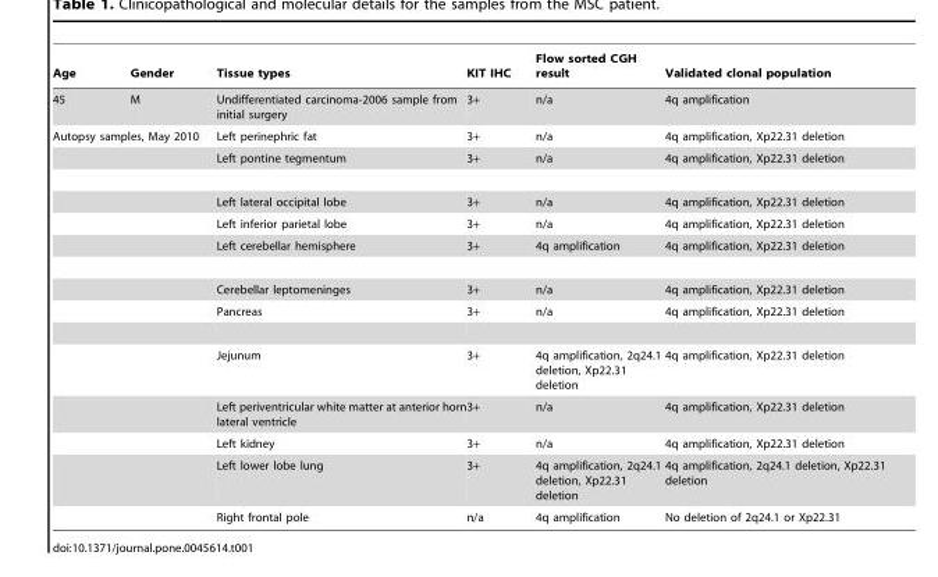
<table><thead><tr><td>Age</td><td>Gender</td><td>Tissue types</td><td>KIT IHC</td><td>Flow sorted CGH result</td><td>Validated clonal population</td></tr></thead><tbody><tr><td>45</td><td>M</td><td>Undifferentiated carcinoma-2006 sample from initial surgery</td><td>3+</td><td>n/a</td><td>4q amplification</td></tr><tr><td rowspan="12" colspan="2">Autopsy samples, May 2010</td><td>Left perinephric fat</td><td>3+</td><td>n/a</td><td>4q amplification, Xp22.31 deletion</td></tr><tr><td>Left pontine tegmentum</td><td>3+</td><td>n/a</td><td>4q amplification, Xp22.31 deletion</td></tr><tr><td>Left lateral occipital lobe</td><td>3+</td><td>n/a</td><td>4q amplification, Xp22.31 deletion</td></tr><tr><td>Left inferior parietal lobe</td><td>3+</td><td>n/a</td><td>4q amplification, Xp22.31 deletion</td></tr><tr><td>Left cerebellar hemisphere</td><td>3+</td><td>4q amplification</td><td>4q amplification, Xp22.31 deletion</td></tr><tr><td>Cerebellar leptomeninges</td><td>3+</td><td>n/a</td><td>4q amplification, Xp22.31 deletion</td></tr><tr><td>Pancreas</td><td>3+</td><td>n/a</td><td>4q amplification, Xp22.31 deletion</td></tr><tr><td>Jejunum</td><td>3+</td><td>4q amplification, 2q24.1 deletion, Xp22.31 deletion</td><td>4q amplification, Xp22.31 deletion</td></tr><tr><td>Left periventricular white matter at anterior horn lateral ventricle</td><td>3+</td><td>n/a</td><td>4q amplification, Xp22.31 deletion</td></tr><tr><td>Left kidney</td><td>3+</td><td>n/a</td><td>4q amplification, Xp22.31 deletion</td></tr><tr><td>Left lower lobe lung</td><td>3+</td><td>4q amplification, 2q24.1 deletion, Xp22.31 deletion</td><td>4q amplification, 2q24.1 deletion, Xp22.31 deletion</td></tr><tr><td>Right frontal pole</td><td>n/a</td><td>4q amplification</td><td>No deletion of 2q24.1 or Xp22.31</td></tr></tbody></table>